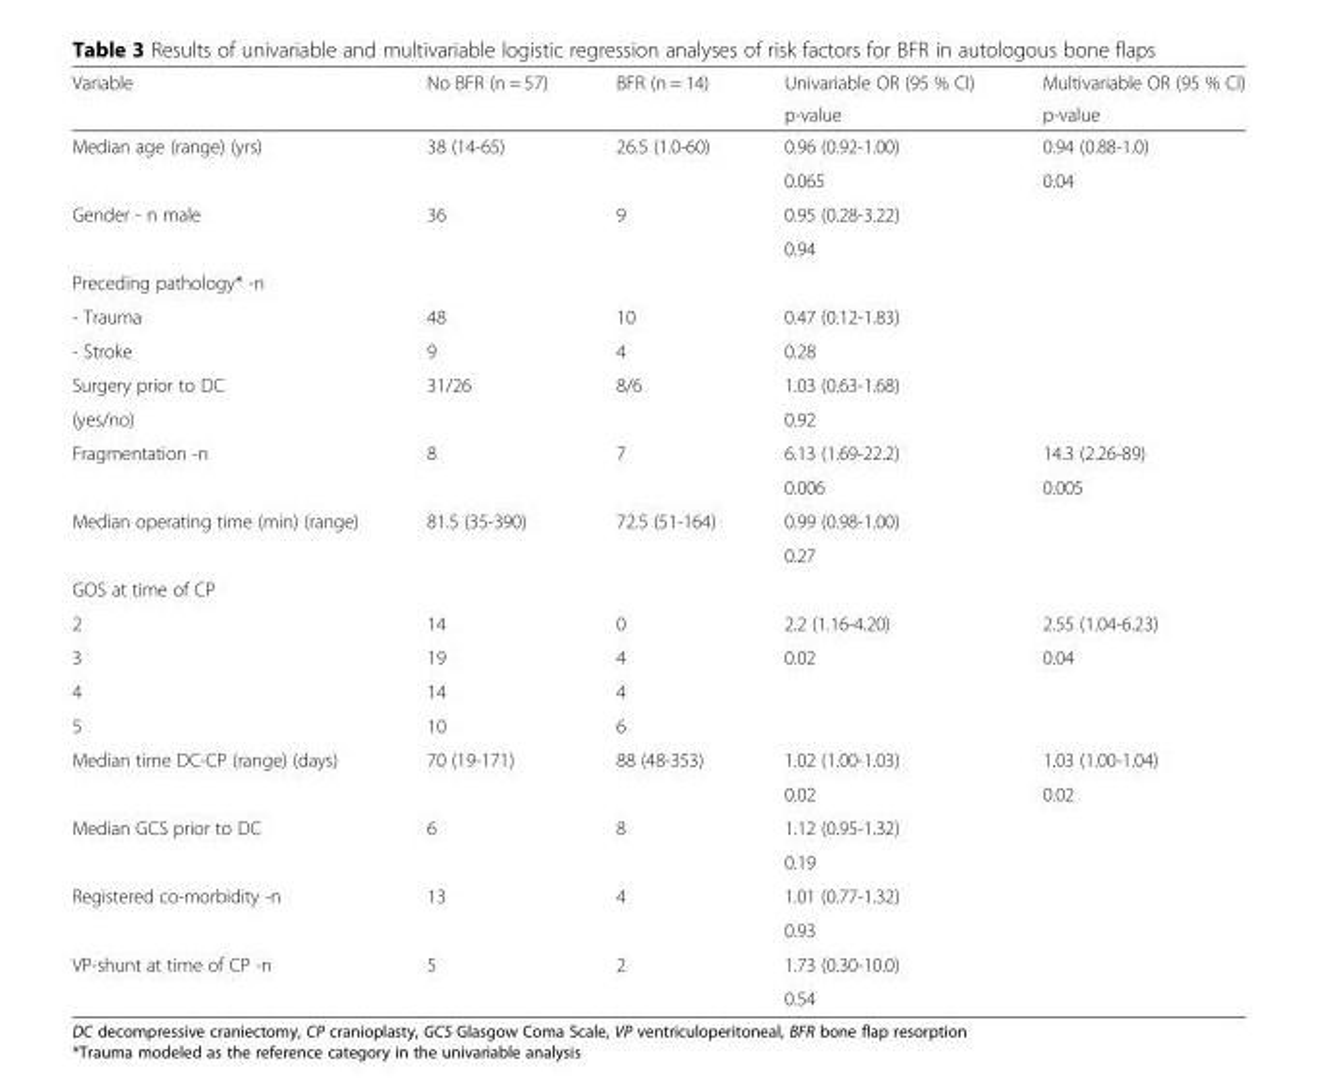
<table><thead><tr><td rowspan="2">Variable</td><td rowspan="2">No BFR (n = 57)</td><td rowspan="2">BFR (n = 14)</td><td rowspan="2">Univariable OR (95 % CI) p-value</td><td rowspan="2">Multivariable OR (95 % CI) p-value</td></tr><tr></tr></thead><tbody><tr><td rowspan="2">Median age (range) (yrs)</td><td rowspan="2">38 (14-65)</td><td rowspan="2">26.5 (1.0-60)</td><td>0.96 (0.92-1.00)</td><td>0.94 (0.88-1.0)</td></tr><tr><td>0.065</td><td>0.04</td></tr><tr><td rowspan="2">Gender - n male</td><td rowspan="2">36</td><td rowspan="2">9</td><td>0.95 (0.28-3.22)</td><td rowspan="2"></td></tr><tr><td>0.94</td></tr><tr><td colspan="5">Preceding pathology* -n</td></tr><tr><td>- Trauma</td><td>48</td><td>10</td><td>0.47 (0.12-1.83)</td><td></td></tr><tr><td>- Stroke</td><td>9</td><td>4</td><td>0.28</td><td></td></tr><tr><td>Surgery prior to DC</td><td rowspan="2">31/26</td><td rowspan="2">8/6</td><td>1.03 (0.63-1.68)</td><td></td></tr><tr><td>(yes/no)</td><td>0.92</td><td></td></tr><tr><td rowspan="2">Fragmentation -n</td><td rowspan="2">8</td><td rowspan="2">7</td><td>6.13 (1.69-22.2)</td><td>14.3 (2.26-89)</td></tr><tr><td>0.006</td><td>0.005</td></tr><tr><td rowspan="2">Median operating time (min) (range)</td><td rowspan="2">81.5 (35-390)</td><td rowspan="2">72.5 (51-164)</td><td>0.99 (0.98-1.00)</td><td rowspan="2"></td></tr><tr><td>0.27</td></tr><tr><td colspan="5">GOS at time of CP</td></tr><tr><td>2</td><td>14</td><td>0</td><td>2.2 (1.16-4.20)</td><td>2.55 (1.04-6.23)</td></tr><tr><td>3</td><td>19</td><td>4</td><td>0.02</td><td>0.04</td></tr><tr><td>4</td><td>14</td><td>4</td><td></td><td></td></tr><tr><td>5</td><td>10</td><td>6</td><td></td><td></td></tr><tr><td rowspan="2">Median time DC-CP (range) (days)</td><td rowspan="2">70 (19-171)</td><td rowspan="2">88 (48-353)</td><td>1.02 (1.00-1.03)</td><td>1.03 (1.00-1.04)</td></tr><tr><td>0.02</td><td>0.02</td></tr><tr><td rowspan="2">Median GCS prior to DC</td><td rowspan="2">6</td><td rowspan="2">8</td><td>1.12 (0.95-1.32)</td><td></td></tr><tr><td>0.19</td><td></td></tr><tr><td rowspan="2">Registered co-morbidity -n</td><td rowspan="2">13</td><td rowspan="2">4</td><td>1.01 (0.77-1.32)</td><td rowspan="2"></td></tr><tr><td>0.93</td></tr><tr><td rowspan="2">VP-shunt at time of CP -n</td><td rowspan="2">5</td><td rowspan="2">2</td><td>1.73 (0.30-10.0)</td><td rowspan="2"></td></tr><tr><td>0.54</td></tr></tbody></table>